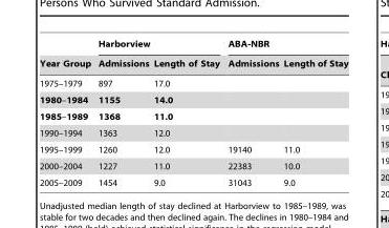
<table><thead><tr><td rowspan="2">Year Group</td><td colspan="2">Harborview</td><td colspan="2">ABA-NBR</td></tr><tr><td>Admissions</td><td>Length of Stay</td><td>Admissions</td><td>Length of Stay</td></tr></thead><tbody><tr><td>1975–1979</td><td>897</td><td>17.0</td><td></td><td></td></tr><tr><td>1980–1984</td><td>1155</td><td>14.0</td><td></td><td></td></tr><tr><td>1985–1989</td><td>1368</td><td>11.0</td><td></td><td></td></tr><tr><td>1990–1994</td><td>1363</td><td>12.0</td><td></td><td></td></tr><tr><td>1995–1999</td><td>1260</td><td>12.0</td><td>19140</td><td>11.0</td></tr><tr><td>2000–2004</td><td>1227</td><td>11.0</td><td>22383</td><td>10.0</td></tr><tr><td>2005–2009</td><td>1454</td><td>9.0</td><td>31043</td><td>9.0</td></tr></tbody></table>